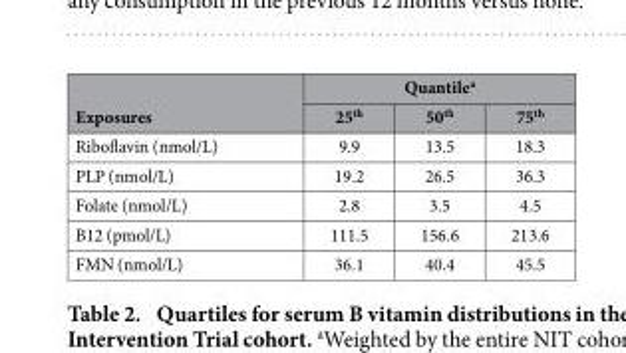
<table><thead><tr><td rowspan="2">Exposures</td><td colspan="3">Quantile<sup>a</sup></td></tr><tr><td>25<sup>th</sup></td><td>50<sup>th</sup></td><td>75<sup>th</sup></td></tr></thead><tbody><tr><td>Riboflavin (nmol/L)</td><td>9.9</td><td>13.5</td><td>18.3</td></tr><tr><td>PLP (nmol/L)</td><td>19.2</td><td>26.5</td><td>36.3</td></tr><tr><td>Folate (nmol/L)</td><td>2.8</td><td>3.5</td><td>4.5</td></tr><tr><td>B12 (pmol/L)</td><td>111.5</td><td>156.6</td><td>213.6</td></tr><tr><td>FMN (nmol/L)</td><td>36.1</td><td>40.4</td><td>45.5</td></tr></tbody></table>